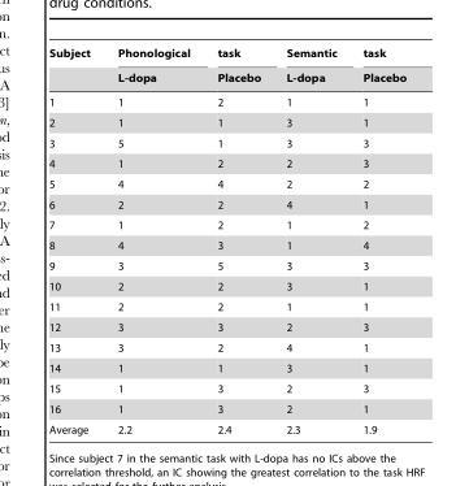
<table><thead><tr><td rowspan="2">Subject</td><td rowspan="2">Phonological L-dopa</td><td rowspan="2">task Placebo</td><td rowspan="2">Semantic L-dopa</td><td rowspan="2">task Placebo</td></tr><tr></tr></thead><tbody><tr><td>1</td><td>1</td><td>2</td><td>1</td><td>1</td></tr><tr><td>2</td><td>1</td><td>1</td><td>3</td><td>1</td></tr><tr><td>3</td><td>5</td><td>1</td><td>3</td><td>3</td></tr><tr><td>4</td><td>1</td><td>2</td><td>2</td><td>3</td></tr><tr><td>5</td><td>4</td><td>4</td><td>2</td><td>2</td></tr><tr><td>6</td><td>2</td><td>2</td><td>4</td><td>1</td></tr><tr><td>7</td><td>1</td><td>2</td><td>1</td><td>2</td></tr><tr><td>8</td><td>4</td><td>3</td><td>1</td><td>4</td></tr><tr><td>9</td><td>3</td><td>5</td><td>3</td><td>3</td></tr><tr><td>10</td><td>2</td><td>2</td><td>3</td><td>1</td></tr><tr><td>11</td><td>2</td><td>2</td><td>1</td><td>1</td></tr><tr><td>12</td><td>3</td><td>3</td><td>2</td><td>3</td></tr><tr><td>13</td><td>3</td><td>2</td><td>4</td><td>1</td></tr><tr><td>14</td><td>1</td><td>1</td><td>3</td><td>1</td></tr><tr><td>15</td><td>1</td><td>3</td><td>2</td><td>3</td></tr><tr><td>16</td><td>1</td><td>3</td><td>2</td><td>1</td></tr><tr><td>Average</td><td>2.2</td><td>2.4</td><td>2.3</td><td>1.9</td></tr></tbody></table>